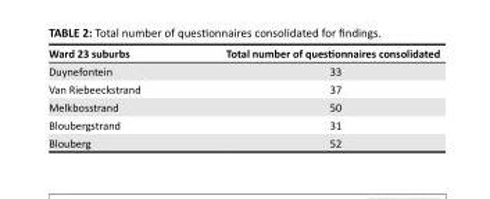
<table><thead><tr><td>Ward 23 suburbs</td><td>Total number of questionnaires consolidated</td></tr></thead><tbody><tr><td>Duynefontein</td><td>33</td></tr><tr><td>Van Riebeeckstrand</td><td>37</td></tr><tr><td>Melkbosstrand</td><td>50</td></tr><tr><td>Bloubergstrand</td><td>31</td></tr><tr><td>Blouberg</td><td>52</td></tr></tbody></table>